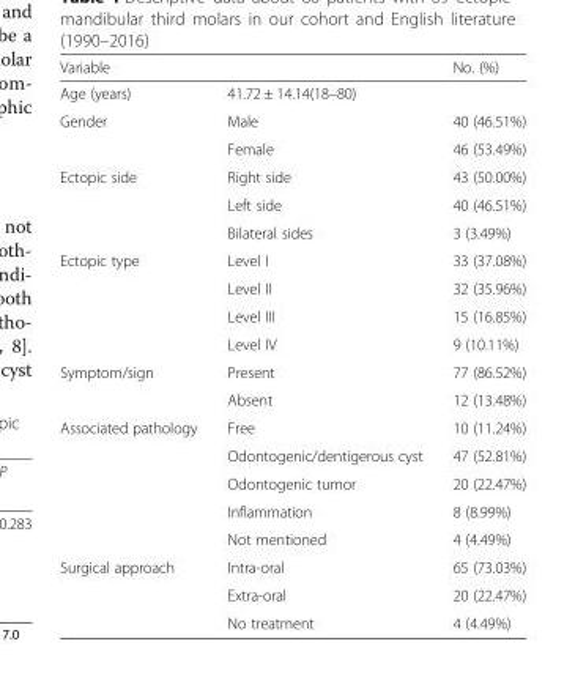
<table><thead><tr><td>Variable</td><td></td><td>No. (%)</td></tr></thead><tbody><tr><td>Age (years)</td><td colspan="2">41.72 ± 14.14(18–80)</td></tr><tr><td rowspan="2">Gender</td><td>Male</td><td>40 (46.51%)</td></tr><tr><td>Female</td><td>46 (53.49%)</td></tr><tr><td rowspan="3">Ectopic side</td><td>Right side</td><td>43 (50.00%)</td></tr><tr><td>Left side</td><td>40 (46.51%)</td></tr><tr><td>Bilateral sides</td><td>3 (3.49%)</td></tr><tr><td rowspan="4">Ectopic type</td><td>Level I</td><td>33 (37.08%)</td></tr><tr><td>Level II</td><td>32 (35.96%)</td></tr><tr><td>Level III</td><td>15 (16.85%)</td></tr><tr><td>Level IV</td><td>9 (10.11%)</td></tr><tr><td rowspan="2">Symptom/sign</td><td>Present</td><td>77 (86.52%)</td></tr><tr><td>Absent</td><td>12 (13.48%)</td></tr><tr><td rowspan="5">Associated pathology</td><td>Free</td><td>10 (11.24%)</td></tr><tr><td>Odontogenic/dentigerous cyst</td><td>47 (52.81%)</td></tr><tr><td>Odontogenic tumor</td><td>20 (22.47%)</td></tr><tr><td>Inflammation</td><td>8 (8.99%)</td></tr><tr><td>Not mentioned</td><td>4 (4.49%)</td></tr><tr><td rowspan="3">Surgical approach</td><td>Intra-oral</td><td>65 (73.03%)</td></tr><tr><td>Extra-oral</td><td>20 (22.47%)</td></tr><tr><td>No treatment</td><td>4 (4.49%)</td></tr></tbody></table>